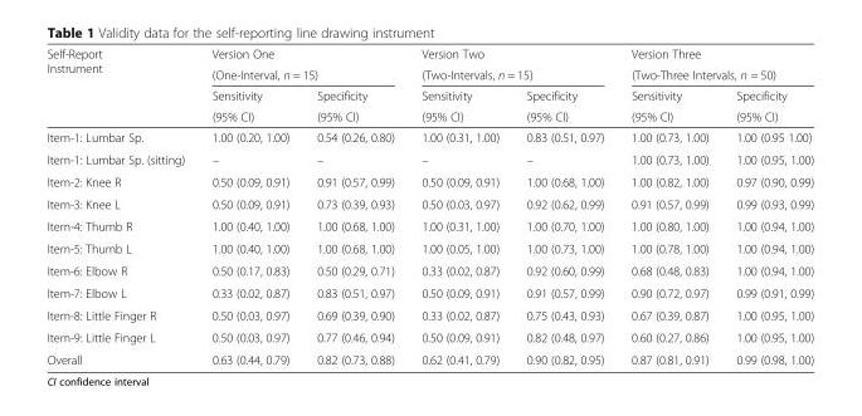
<table><thead><tr><td rowspan="4">Self-Report Instrument</td><td>Version One</td><td></td><td>Version Two</td><td></td><td>Version Three</td><td></td></tr><tr><td colspan="2">(One-Interval, n = 15)</td><td colspan="2">(Two-Intervals, n = 15)</td><td colspan="2">(Two-Three Intervals, n = 50)</td></tr><tr><td rowspan="2">Sensitivity (95% CI)</td><td rowspan="2">Specificity (95% CI)</td><td rowspan="2">Sensitivity (95% CI)</td><td rowspan="2">Specificity (95% CI)</td><td rowspan="2">Sensitivity (95% CI)</td><td rowspan="2">Specificity (95% CI)</td></tr><tr></tr></thead><tbody><tr><td>Item-1: Lumbar Sp.</td><td>1.00 (0.20, 1.00)</td><td>0.54 (0.26, 0.80)</td><td>1.00 (0.31, 1.00)</td><td>0.83 (0.51, 0.97)</td><td>1.00 (0.73, 1.00)</td><td>1.00 (0.95 1.00)</td></tr><tr><td>Item-1: Lumbar Sp. (sitting)</td><td>–</td><td>–</td><td>–</td><td>–</td><td>1.00 (0.73, 1.00)</td><td>1.00 (0.95, 1.00)</td></tr><tr><td>Item-2: Knee R</td><td>0.50 (0.09, 0.91)</td><td>0.91 (0.57, 0.99)</td><td>0.50 (0.09, 0.91)</td><td>1.00 (0.68, 1.00)</td><td>1.00 (0.82, 1.00)</td><td>0.97 (0.90, 0.99)</td></tr><tr><td>Item-3: Knee L</td><td>0.50 (0.09, 0.91)</td><td>0.73 (0.39, 0.93)</td><td>0.50 (0.03, 0.97)</td><td>0.92 (0.62, 0.99)</td><td>0.91 (0.57, 0.99)</td><td>0.99 (0.93, 0.99)</td></tr><tr><td>Item-4: Thumb R</td><td>1.00 (0.40, 1.00)</td><td>1.00 (0.68, 1.00)</td><td>1.00 (0.31, 1.00)</td><td>1.00 (0.70, 1.00)</td><td>1.00 (0.80, 1.00)</td><td>1.00 (0.94, 1.00)</td></tr><tr><td>Item-5: Thumb L</td><td>1.00 (0.40, 1.00)</td><td>1.00 (0.68, 1.00)</td><td>1.00 (0.05, 1.00)</td><td>1.00 (0.73, 1.00)</td><td>1.00 (0.78, 1.00)</td><td>1.00 (0.94, 1.00)</td></tr><tr><td>Item-6: Elbow R</td><td>0.50 (0.17, 0.83)</td><td>0.50 (0.29, 0.71)</td><td>0.33 (0.02, 0.87)</td><td>0.92 (0.60, 0.99)</td><td>0.68 (0.48, 0.83)</td><td>1.00 (0.94, 1.00)</td></tr><tr><td>Item-7: Elbow L</td><td>0.33 (0.02, 0.87)</td><td>0.83 (0.51, 0.97)</td><td>0.50 (0.09, 0.91)</td><td>0.91 (0.57, 0.99)</td><td>0.90 (0.72, 0.97)</td><td>0.99 (0.91, 0.99)</td></tr><tr><td>Item-8: Little Finger R</td><td>0.50 (0.03, 0.97)</td><td>0.69 (0.39, 0.90)</td><td>0.33 (0.02, 0.87)</td><td>0.75 (0.43, 0.93)</td><td>0.67 (0.39, 0.87)</td><td>1.00 (0.95, 1.00)</td></tr><tr><td>Item-9: Little Finger L</td><td>0.50 (0.03, 0.97)</td><td>0.77 (0.46, 0.94)</td><td>0.50 (0.09, 0.91)</td><td>0.82 (0.48, 0.97)</td><td>0.60 (0.27, 0.86)</td><td>1.00 (0.95, 1.00)</td></tr><tr><td>Overall</td><td>0.63 (0.44, 0.79)</td><td>0.82 (0.73, 0.88)</td><td>0.62 (0.41, 0.79)</td><td>0.90 (0.82, 0.95)</td><td>0.87 (0.81, 0.91)</td><td>0.99 (0.98, 1.00)</td></tr></tbody></table>